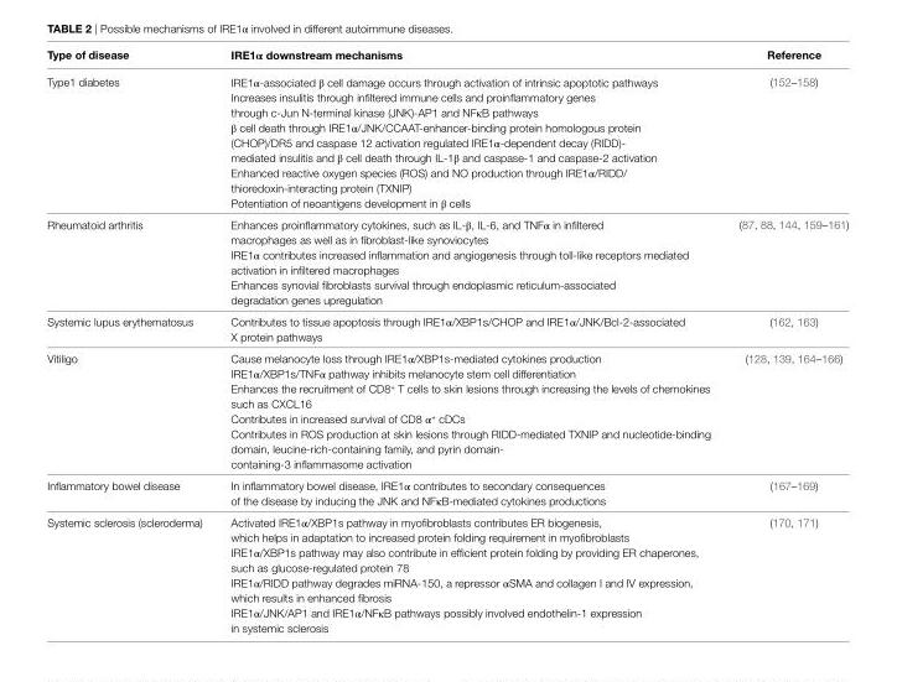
<table><thead><tr><td>Type of disease</td><td>iRe1α downstream mechanisms</td><td>Reference</td></tr></thead><tbody><tr><td>Type1 diabetes</td><td>IRE1α-associated β cell damage occurs through activation of intrinsic apoptotic pathways Increases insulitis through infiltered immune cells and proinflammatory genes through c-Jun N-terminal kinase (JNK)-AP1 and NFκB pathways β cell death through IRE1α/JNK/CCAAT-enhancer-binding protein homologous protein (CHOP)/DR5 and caspase 12 activation regulated IRE1α-dependent decay (RIDD)- mediated insulitis and β cell death through IL-1β and caspase-1 and caspase-2 activation Enhanced reactive oxygen species (ROS) and NO production through IRE1α/RIDD/ thioredoxin-interacting protein (TXNIP) Potentiation of neoantigens development in β cells</td><td>(152–158)</td></tr><tr><td>Rheumatoid arthritis</td><td>Enhances proinflammatory cytokines, such as IL-β, IL-6, and TNFα in infiltered macrophages as well as in fibroblast-like synoviocytes IRE1α contributes increased inflammation and angiogenesis through toll-like receptors mediated activation in infiltered macrophages Enhances synovial fibroblasts survival through endoplasmic reticulum-associated degradation genes upregulation</td><td>(87, 88, 144, 159–161)</td></tr><tr><td>Systemic lupus erythematosus</td><td>Contributes to tissue apoptosis through IRE1α/XBP1s/CHOP and IRE1α/JNK/Bcl-2-associated X protein pathways</td><td>(162, 163)</td></tr><tr><td>Vitiligo</td><td>Cause melanocyte loss through IRE1α/XBP1s-mediated cytokines production IRE1α/XBP1s/TNFα pathway inhibits melanocyte stem cell differentiation Enhances the recruitment of CD8<sup>+</sup> T cells to skin lesions through increasing the levels of chemokines such as CXCL16 Contributes in increased survival of CD8 α<sup>+</sup> cDCs Contributes in ROS production at skin lesions through RIDD-mediated TXNIP and nucleotide-binding domain, leucine-rich-containing family, and pyrin domain- containing-3 inflammasome activation</td><td>(128, 139, 164–166)</td></tr><tr><td>Inflammatory bowel disease</td><td>In inflammatory bowel disease, IRE1α contributes to secondary consequences of the disease by inducing the JNK and NFκB-mediated cytokines productions</td><td>(167–169)</td></tr><tr><td>Systemic sclerosis (scleroderma)</td><td>Activated IRE1α/XBP1s pathway in myofibroblasts contributes ER biogenesis, which helps in adaptation to increased protein folding requirement in myofibroblasts IRE1α/XBP1s pathway may also contribute in efficient protein folding by providing ER chaperones, such as glucose-regulated protein 78 IRE1α/RIDD pathway degrades miRNA-150, a repressor αSMA and collagen I and IV expression, which results in enhanced fibrosis IRE1α/JNK/AP1 and IRE1α/NFκB pathways possibly involved endothelin-1 expression in systemic sclerosis</td><td>(170, 171)</td></tr></tbody></table>